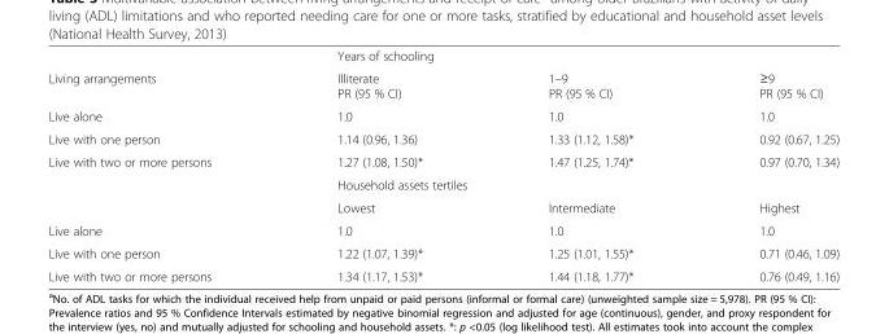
<table><thead><tr><td rowspan="2">Living arrangements</td><td colspan="3">Years of schooling</td></tr><tr><td>Illiterate PR (95 % CI)</td><td>1–9 PR (95 % CI)</td><td>≥9 PR (95 % CI)</td></tr></thead><tbody><tr><td>Live alone</td><td>1.0</td><td>1.0</td><td>1.0</td></tr><tr><td>Live with one person</td><td>1.14 (0.96, 1.36)</td><td>1.33 (1.12, 1.58)*</td><td>0.92 (0.67, 1.25)</td></tr><tr><td rowspan="3">Live with two or more persons</td><td>1.27 (1.08, 1.50)*</td><td>1.47 (1.25, 1.74)*</td><td>0.97 (0.70, 1.34)</td></tr><tr><td colspan="3">Household assets tertiles</td></tr><tr><td>Lowest</td><td>Intermediate</td><td>Highest</td></tr><tr><td>Live alone</td><td>1.0</td><td>1.0</td><td>1.0</td></tr><tr><td>Live with one person</td><td>1.22 (1.07, 1.39)*</td><td>1.25 (1.01, 1.55)*</td><td>0.71 (0.46, 1.09)</td></tr><tr><td>Live with two or more persons</td><td>1.34 (1.17, 1.53)*</td><td>1.44 (1.18, 1.77)*</td><td>0.76 (0.49, 1.16)</td></tr></tbody></table>